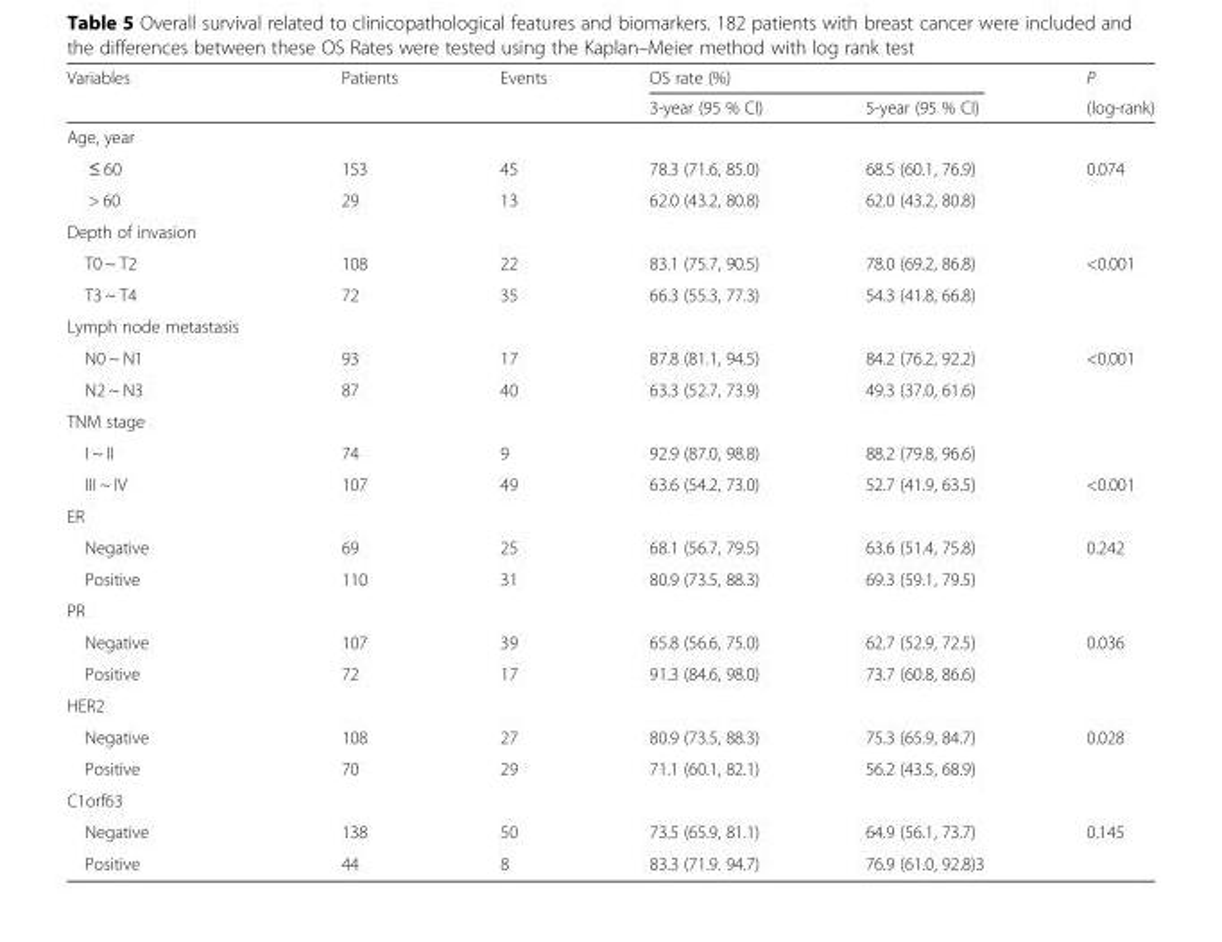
<table><thead><tr><td rowspan="2">Variables</td><td rowspan="2">Patients</td><td rowspan="2">Events</td><td colspan="2">OS rate (%)</td><td rowspan="2">P (log-rank)</td></tr><tr><td>3-year (95 % CI)</td><td>5-year (95 % CI)</td></tr></thead><tbody><tr><td colspan="6">Age, year</td></tr><tr><td>≤ 60</td><td>153</td><td>45</td><td>78.3 (71.6, 85.0)</td><td>68.5 (60.1, 76.9)</td><td>0.074</td></tr><tr><td>&gt; 60</td><td>29</td><td>13</td><td>62.0 (43.2, 80.8)</td><td>62.0 (43.2, 80.8)</td><td></td></tr><tr><td colspan="6">Depth of invasion</td></tr><tr><td>T0 ~ T2</td><td>108</td><td>22</td><td>83.1 (75.7, 90.5)</td><td>78.0 (69.2, 86.8)</td><td>&lt;0.001</td></tr><tr><td>T3 ~ T4</td><td>72</td><td>35</td><td>66.3 (55.3, 77.3)</td><td>54.3 (41.8, 66.8)</td><td></td></tr><tr><td colspan="6">Lymph node metastasis</td></tr><tr><td>N0 ~ N1</td><td>93</td><td>17</td><td>87.8 (81.1, 94.5)</td><td>84.2 (76.2, 92.2)</td><td>&lt;0.001</td></tr><tr><td>N2 ~ N3</td><td>87</td><td>40</td><td>63.3 (52.7, 73.9)</td><td>49.3 (37.0, 61.6)</td><td></td></tr><tr><td colspan="6">TNM stage</td></tr><tr><td>I ~ II</td><td>74</td><td>9</td><td>92.9 (87.0, 98.8)</td><td>88.2 (79.8, 96.6)</td><td></td></tr><tr><td>III ~ IV</td><td>107</td><td>49</td><td>63.6 (54.2, 73.0)</td><td>52.7 (41.9, 63.5)</td><td>&lt;0.001</td></tr><tr><td colspan="6">ER</td></tr><tr><td>Negative</td><td>69</td><td>25</td><td>68.1 (56.7, 79.5)</td><td>63.6 (51.4, 75.8)</td><td>0.242</td></tr><tr><td>Positive</td><td>110</td><td>31</td><td>80.9 (73.5, 88.3)</td><td>69.3 (59.1, 79.5)</td><td></td></tr><tr><td colspan="6">PR</td></tr><tr><td>Negative</td><td>107</td><td>39</td><td>65.8 (56.6, 75.0)</td><td>62.7 (52.9, 72.5)</td><td>0.036</td></tr><tr><td>Positive</td><td>72</td><td>17</td><td>91.3 (84.6, 98.0)</td><td>73.7 (60.8, 86.6)</td><td></td></tr><tr><td colspan="6">HER2</td></tr><tr><td>Negative</td><td>108</td><td>27</td><td>80.9 (73.5, 88.3)</td><td>75.3 (65.9, 84.7)</td><td>0.028</td></tr><tr><td>Positive</td><td>70</td><td>29</td><td>71.1 (60.1, 82.1)</td><td>56.2 (43.5, 68.9)</td><td></td></tr><tr><td colspan="6">C1orf63</td></tr><tr><td>Negative</td><td>138</td><td>50</td><td>73.5 (65.9, 81.1)</td><td>64.9 (56.1, 73.7)</td><td>0.145</td></tr><tr><td>Positive</td><td>44</td><td>8</td><td>83.3 (71.9. 94.7)</td><td>76.9 (61.0, 92.8)3</td><td></td></tr></tbody></table>